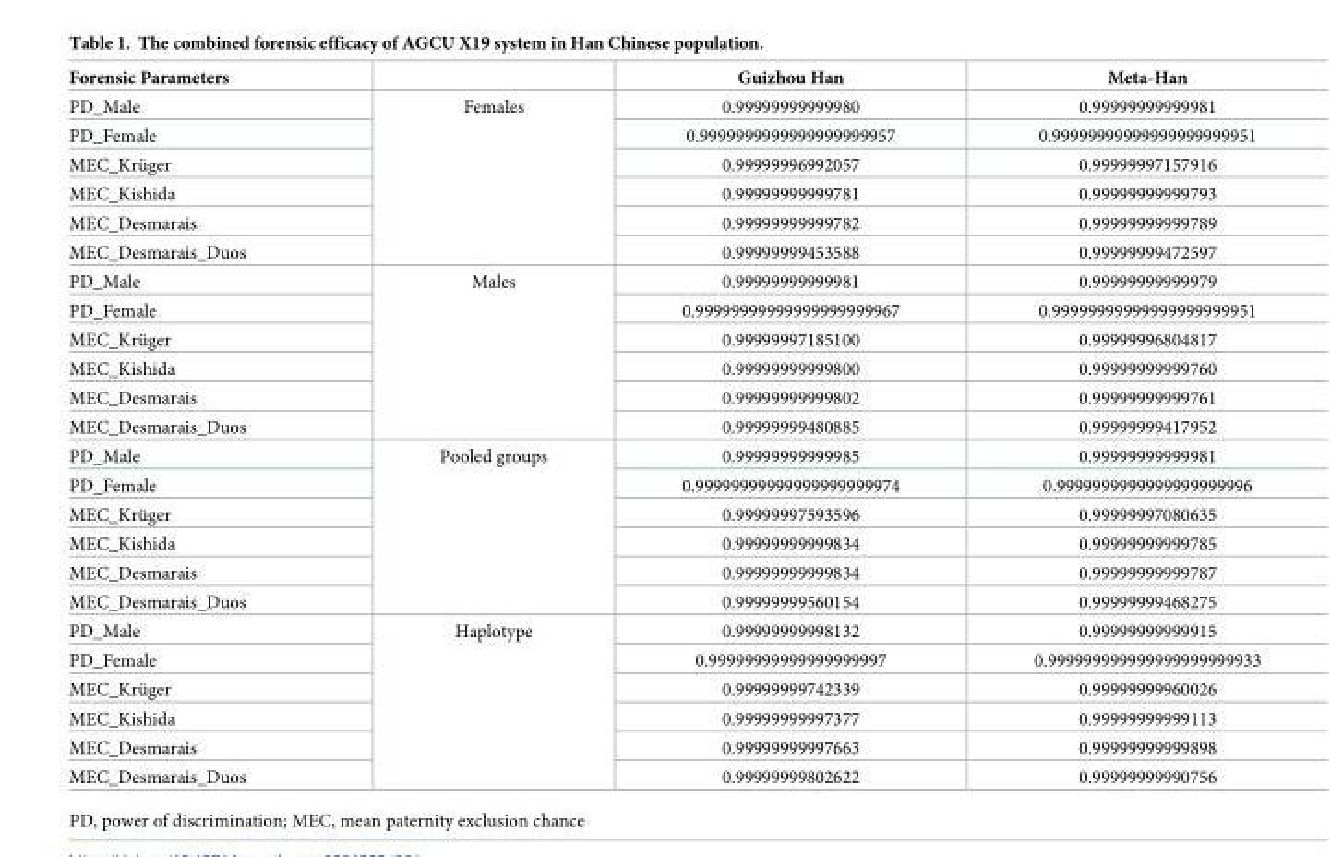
<table><thead><tr><td>Forensic Parameters</td><td></td><td>Guizhou Han</td><td>Meta-Han</td></tr></thead><tbody><tr><td>PD_Male</td><td rowspan="6">Females</td><td>0.99999999999980</td><td>0.99999999999981</td></tr><tr><td>PD_Female</td><td>0.9999999999999999999957</td><td>0.99999999999999999999951</td></tr><tr><td>MEC_Kru¨ger</td><td>0.99999996992057</td><td>0.99999997157916</td></tr><tr><td>MEC_Kishida</td><td>0.99999999999781</td><td>0.99999999999793</td></tr><tr><td>MEC_Desmarais</td><td>0.99999999999782</td><td>0.99999999999789</td></tr><tr><td>MEC_Desmarais_Duos</td><td>0.99999999453588</td><td>0.99999999472597</td></tr><tr><td>PD_Male</td><td rowspan="6">Males</td><td>0.99999999999981</td><td>0.99999999999979</td></tr><tr><td>PD_Female</td><td>0.99999999999999999999967</td><td>0.99999999999999999999951</td></tr><tr><td>MEC_Kru¨ger</td><td>0.99999997185100</td><td>0.99999996804817</td></tr><tr><td>MEC_Kishida</td><td>0.99999999999800</td><td>0.99999999999760</td></tr><tr><td>MEC_Desmarais</td><td>0.99999999999802</td><td>0.99999999999761</td></tr><tr><td>MEC_Desmarais_Duos</td><td>0.99999999480885</td><td>0.99999999417952</td></tr><tr><td>PD_Male</td><td rowspan="6">Pooled groups</td><td>0.99999999999985</td><td>0.99999999999981</td></tr><tr><td>PD_Female</td><td>0.99999999999999999999974</td><td>0.9999999999999999999996</td></tr><tr><td>MEC_Kru¨ger</td><td>0.99999997593596</td><td>0.99999997080635</td></tr><tr><td>MEC_Kishida</td><td>0.99999999999834</td><td>0.99999999999785</td></tr><tr><td>MEC_Desmarais</td><td>0.99999999999834</td><td>0.99999999999787</td></tr><tr><td>MEC_Desmarais_Duos</td><td>0.99999999560154</td><td>0.99999999468275</td></tr><tr><td>PD_Male</td><td rowspan="6">Haplotype</td><td>0.99999999998132</td><td>0.99999999999915</td></tr><tr><td>PD_Female</td><td>0.99999999999999999997</td><td>0.999999999999999999999933</td></tr><tr><td>MEC_Kru¨ger</td><td>0.99999999742339</td><td>0.99999999960026</td></tr><tr><td>MEC_Kishida</td><td>0.99999999997377</td><td>0.99999999999113</td></tr><tr><td>MEC_Desmarais</td><td>0.99999999997663</td><td>0.99999999999898</td></tr><tr><td>MEC_Desmarais_Duos</td><td>0.99999999802622</td><td>0.99999999990756</td></tr></tbody></table>